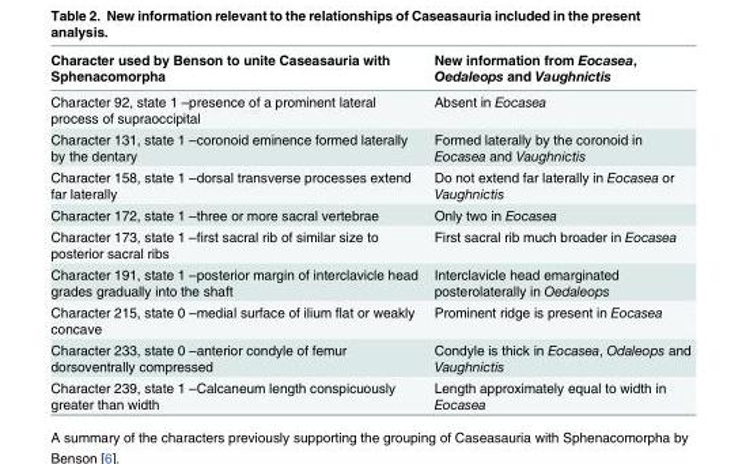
<table><thead><tr><td>Character used by Benson to unite Caseasauria with Sphenacomorpha</td><td>New information from Eocasea, Oedaleops and Vaughnictis</td></tr></thead><tbody><tr><td>Character 92, state 1 –presence of a prominent lateral process of supraoccipital</td><td>Absent in Eocasea</td></tr><tr><td>Character 131, state 1 –coronoid eminence formed laterally by the dentary</td><td>Formed laterally by the coronoid in Eocasea and Vaughnictis</td></tr><tr><td>Character 158, state 1 –dorsal transverse processes extend far laterally</td><td>Do not extend far laterally in Eocasea or Vaughnictis</td></tr><tr><td>Character 172, state 1 –three or more sacral vertebrae</td><td>Only two in Eocasea</td></tr><tr><td>Character 173, state 1 –first sacral rib of similar size to posterior sacral ribs</td><td>First sacral rib much broader in Eocasea</td></tr><tr><td>Character 191, state 1 –posterior margin of interclavicle head grades gradually into the shaft</td><td>Interclavicle head emarginated posterolaterally in Oedaleops</td></tr><tr><td>Character 215, state 0 –medial surface of ilium flat or weakly concave</td><td>Prominent ridge is present in Eocasea</td></tr><tr><td>Character 233, state 0 –anterior condyle of femur dorsoventrally compressed</td><td>Condyle is thick in Eocasea, Odaleops and Vaughnictis</td></tr><tr><td>Character 239, state 1 –Calcaneum length conspicuously greater than width</td><td>Length approximately equal to width in Eocasea</td></tr></tbody></table>